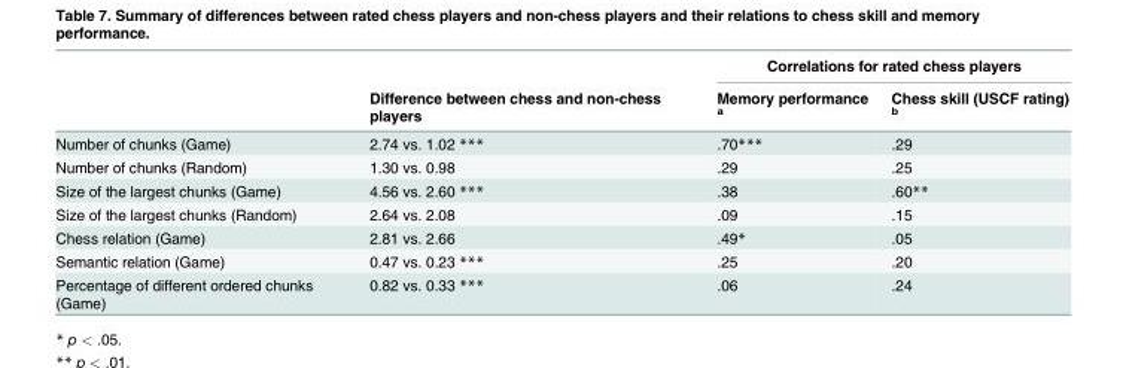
<table><thead><tr><td rowspan="2"></td><td rowspan="2">Difference between chess and non-chess players</td><td colspan="2">Correlations for rated chess players</td></tr><tr><td>Memory performance <sup>a</sup></td><td>Chess skill (USCF rating) <sup>b</sup></td></tr></thead><tbody><tr><td>Number of chunks (Game)</td><td>2.74 vs. 1.02 ***</td><td>.70***</td><td>.29</td></tr><tr><td>Number of chunks (Random)</td><td>1.30 vs. 0.98</td><td>.29</td><td>.25</td></tr><tr><td>Size of the largest chunks (Game)</td><td>4.56 vs. 2.60 ***</td><td>.38</td><td>.60**</td></tr><tr><td>Size of the largest chunks (Random)</td><td>2.64 vs. 2.08</td><td>.09</td><td>.15</td></tr><tr><td>Chess relation (Game)</td><td>2.81 vs. 2.66</td><td>.49*</td><td>.05</td></tr><tr><td>Semantic relation (Game)</td><td>0.47 vs. 0.23 ***</td><td>.25</td><td>.20</td></tr><tr><td>Percentage of different ordered chunks (Game)</td><td>0.82 vs. 0.33 ***</td><td>.06</td><td>.24</td></tr></tbody></table>